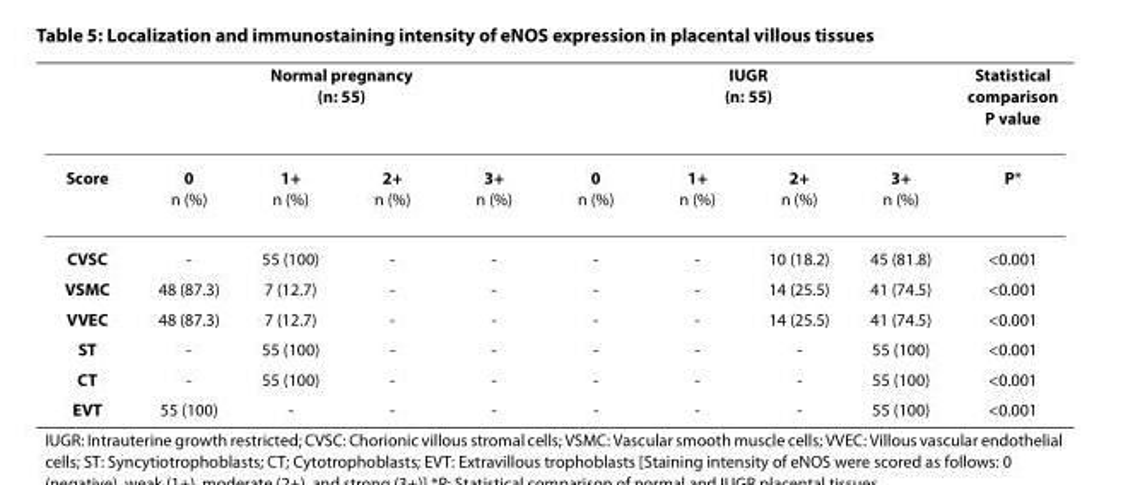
<table><thead><tr><td rowspan="2">Score</td><td colspan="4">Normal pregnancy (n: 55)</td><td colspan="4">IUGR (n: 55)</td><td rowspan="2">Statistical comparison P value P*</td></tr><tr><td>0 n (%)</td><td>1+ n (%)</td><td>2+ n (%)</td><td>3+ n (%)</td><td>0 n (%)</td><td>1+ n (%)</td><td>2+ n (%)</td><td>3+ n (%)</td></tr></thead><tbody><tr><td>CVSC</td><td>-</td><td>55 (100)</td><td>-</td><td>-</td><td>-</td><td>-</td><td>10 (18.2)</td><td>45 (81.8)</td><td>&lt;0.001</td></tr><tr><td>VSMC</td><td>48 (87.3)</td><td>7 (12.7)</td><td>-</td><td>-</td><td>-</td><td>-</td><td>14 (25.5)</td><td>41 (74.5)</td><td>&lt;0.001</td></tr><tr><td>VVEC</td><td>48 (87.3)</td><td>7 (12.7)</td><td>-</td><td>-</td><td>-</td><td>-</td><td>14 (25.5)</td><td>41 (74.5)</td><td>&lt;0.001</td></tr><tr><td>ST</td><td>-</td><td>55 (100)</td><td>-</td><td>-</td><td>-</td><td>-</td><td>-</td><td>55 (100)</td><td>&lt;0.001</td></tr><tr><td>CT</td><td>-</td><td>55 (100)</td><td>-</td><td>-</td><td>-</td><td>-</td><td>-</td><td>55 (100)</td><td>&lt;0.001</td></tr><tr><td>EVT</td><td>55 (100)</td><td>-</td><td>-</td><td>-</td><td>-</td><td>-</td><td>-</td><td>55 (100)</td><td>&lt;0.001</td></tr></tbody></table>